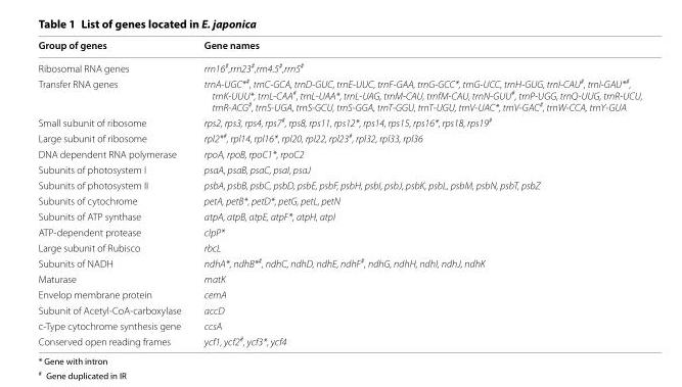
<table><thead><tr><td>Group of genes</td><td>Gene names</td></tr></thead><tbody><tr><td>Ribosomal RNA genes</td><td>rrn16<sup>#</sup>,rrn23<sup>#</sup>,rrn4.5<sup>#</sup>,rrn5<sup>#</sup></td></tr><tr><td>Transfer RNA genes</td><td>trnA-UGC*#, trnC-GCA, trnD-GUC, trnE-UUC, trnF-GAA, trnG-GCC*, trnG-UCC, trnH-GUG, trnI-CAU#, trnI-GAU*#, trnK-UUU*, trnL-CAA#, trnL-UAA*, trnL-UAG, trnM-CAU, trnfM-CAU, trnN-GUU#, trnP-UGG, trnQ-UUG, trnR-UCU, trnR-ACG#, trnS-UGA, trnS-GCU, trnS-GGA, trnT-GGU, trnT-UGU, trnV-UAC*, trnV-GAC#, trnW-CCA, trnY-GUA</td></tr><tr><td>Small subunit of ribosome</td><td>rps2, rps3, rps4, rps7<sup>#</sup>, rps8, rps11, rps12*, rps14, rps15, rps16*, rps18, rps19<sup>#</sup></td></tr><tr><td>Large subunit of ribosome</td><td>rpl2*<sup>#</sup>, rpl14, rpl16*, rpl20, rpl22, rpl23<sup>#</sup>, rpl32, rpl33, rpl36</td></tr><tr><td>DNA dependent RNA polymerase</td><td>rpoA, rpoB, rpoC1*, rpoC2</td></tr><tr><td>Subunits of photosystem I</td><td>psaA, psaB, psaC, psaI, psaJ</td></tr><tr><td>Subunits of photosystem II</td><td>psbA, psbB, psbC, psbD, psbE, psbF, psbH, psbI, psbJ, psbK, psbL, psbM, psbN, psbT, psbZ</td></tr><tr><td>Subunits of cytochrome</td><td>petA, petB*, petD*, petG, petL, petN</td></tr><tr><td>Subunits of ATP synthase</td><td>atpA, atpB, atpE, atpF*, atpH, atpI</td></tr><tr><td>ATP-dependent protease</td><td>clpP*</td></tr><tr><td>Large subunit of Rubisco</td><td>rbcL</td></tr><tr><td>Subunits of NADH</td><td>ndhA*, ndhB*<sup>#</sup>, ndhC, ndhD, ndhE, ndhF<sup>#</sup>, ndhG, ndhH, ndhI, ndhJ, ndhK</td></tr><tr><td>Maturase</td><td>matK</td></tr><tr><td>Envelop membrane protein</td><td>cemA</td></tr><tr><td>Subunit of Acetyl-CoA-carboxylase</td><td>accD</td></tr><tr><td>c-Type cytochrome synthesis gene</td><td>ccsA</td></tr><tr><td>Conserved open reading frames</td><td>ycf1, ycf2<sup>#</sup>, ycf3*, ycf4</td></tr></tbody></table>